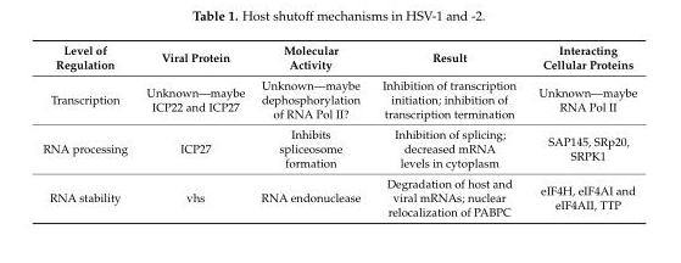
<table><thead><tr><td>Level of Regulation</td><td>Viral Protein</td><td>Molecular Activity</td><td>Result</td><td>Interacting Cellular Proteins</td></tr></thead><tbody><tr><td>Transcription</td><td>Unknown—maybe ICP22 and ICP27</td><td>Unknown—maybe dephosphorylation of RNA Pol II?</td><td>Inhibition of transcription initiation; inhibition of transcription termination</td><td>Unknown—maybe RNA Pol II</td></tr><tr><td>RNA processing</td><td>ICP27</td><td>Inhibits spliceosome formation</td><td>Inhibition of splicing; decreased mRNA levels in cytoplasm</td><td>SAP145, SRp20, SRPK1</td></tr><tr><td>RNA stability</td><td>vhs</td><td>RNA endonuclease</td><td>Degradation of host and viral mRNAs; nuclear relocalization of PABPC</td><td>eIF4H, eIF4AI and eIF4AII, TTP</td></tr></tbody></table>